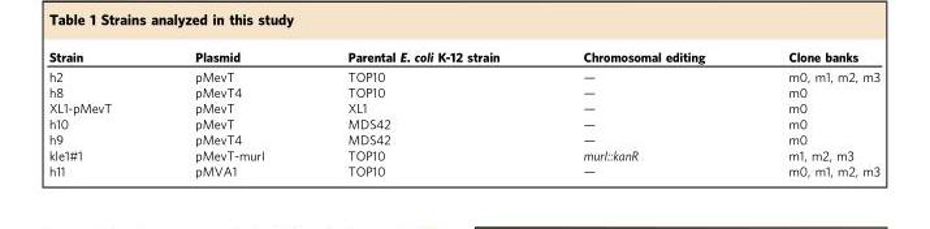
<table><thead><tr><td>Strain</td><td>Plasmid</td><td>Parental E. coli K-12 strain</td><td>Chromosomal editing</td><td>Clone banks</td></tr></thead><tbody><tr><td>h2</td><td>pMevT</td><td>TOP10</td><td>—</td><td>m0, m1, m2, m3</td></tr><tr><td>h8</td><td>pMevT4</td><td>TOP10</td><td>—</td><td>m0</td></tr><tr><td>XL1-pMevT</td><td>pMevT</td><td>XL1</td><td>—</td><td>m0</td></tr><tr><td>h10</td><td>pMevT</td><td>MDS42</td><td>—</td><td>m0</td></tr><tr><td>h9</td><td>pMevT4</td><td>MDS42</td><td>—</td><td>m0</td></tr><tr><td>kle1#1</td><td>pMevT-murI</td><td>TOP10</td><td>murI::kanR</td><td>m1, m2, m3</td></tr><tr><td>h11</td><td>pMVA1</td><td>TOP10</td><td>—</td><td>m0, m1, m2, m3</td></tr></tbody></table>